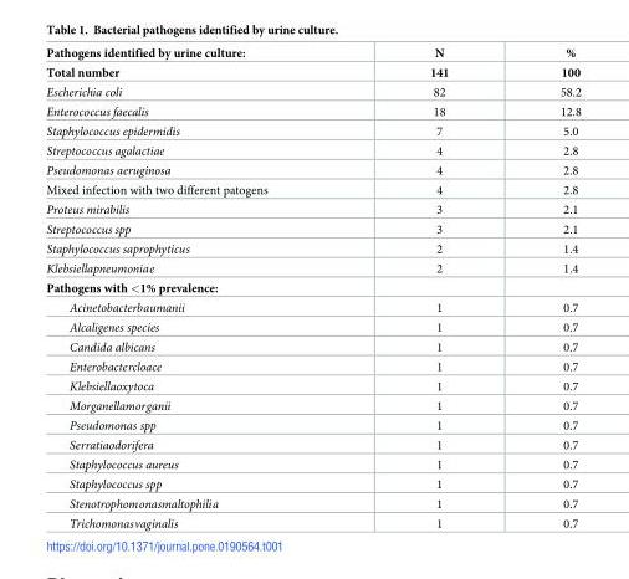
<table><thead><tr><td>Pathogens identified by urine culture:</td><td>N</td><td>%</td></tr></thead><tbody><tr><td>Total number</td><td>141</td><td>100</td></tr><tr><td>Escherichia coli</td><td>82</td><td>58.2</td></tr><tr><td>Enterococcus faecalis</td><td>18</td><td>12.8</td></tr><tr><td>Staphylococcus epidermidis</td><td>7</td><td>5.0</td></tr><tr><td>Streptococcus agalactiae</td><td>4</td><td>2.8</td></tr><tr><td>Pseudomonas aeruginosa</td><td>4</td><td>2.8</td></tr><tr><td>Mixed infection with two different patogens</td><td>4</td><td>2.8</td></tr><tr><td>Proteus mirabilis</td><td>3</td><td>2.1</td></tr><tr><td>Streptococcus spp</td><td>3</td><td>2.1</td></tr><tr><td>Staphylococcus saprophyticus</td><td>2</td><td>1.4</td></tr><tr><td>Klebsiellapneumoniae</td><td>2</td><td>1.4</td></tr><tr><td colspan="3">Pathogens with &lt;1% prevalence:</td></tr><tr><td>Acinetobacterbaumanii</td><td>1</td><td>0.7</td></tr><tr><td>Alcaligenes species</td><td>1</td><td>0.7</td></tr><tr><td>Candida albicans</td><td>1</td><td>0.7</td></tr><tr><td>Enterobactercloace</td><td>1</td><td>0.7</td></tr><tr><td>Klebsiellaoxytoca</td><td>1</td><td>0.7</td></tr><tr><td>Morganellamorganii</td><td>1</td><td>0.7</td></tr><tr><td>Pseudomonas spp</td><td>1</td><td>0.7</td></tr><tr><td>Serratiaodorifera</td><td>1</td><td>0.7</td></tr><tr><td>Staphylococcus aureus</td><td>1</td><td>0.7</td></tr><tr><td>Staphylococcus spp</td><td>1</td><td>0.7</td></tr><tr><td>Stenotrophomonasmaltophilia</td><td>1</td><td>0.7</td></tr><tr><td>Trichomonasvaginalis</td><td>1</td><td>0.7</td></tr></tbody></table>